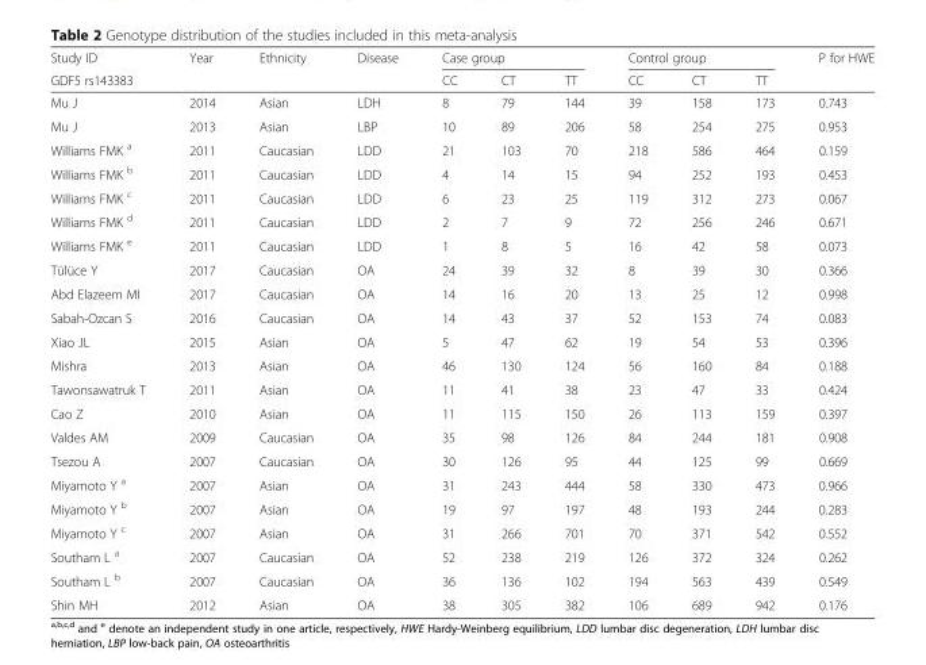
<table><thead><tr><td rowspan="2">Study ID GDF5 rs143383</td><td rowspan="2">Year</td><td rowspan="2">Ethnicity</td><td rowspan="2">Disease</td><td colspan="3">Case group</td><td colspan="3">Control group</td><td rowspan="2">P for HWE</td></tr><tr><td>CC</td><td>CT</td><td>TT</td><td>CC</td><td>CT</td><td>TT</td></tr></thead><tbody><tr><td>Mu J</td><td>2014</td><td>Asian</td><td>LDH</td><td>8</td><td>79</td><td>144</td><td>39</td><td>158</td><td>173</td><td>0.743</td></tr><tr><td>Mu J</td><td>2013</td><td>Asian</td><td>LBP</td><td>10</td><td>89</td><td>206</td><td>58</td><td>254</td><td>275</td><td>0.953</td></tr><tr><td>Williams FMK <sup>a</sup></td><td>2011</td><td>Caucasian</td><td>LDD</td><td>21</td><td>103</td><td>70</td><td>218</td><td>586</td><td>464</td><td>0.159</td></tr><tr><td>Williams FMK <sup>b</sup></td><td>2011</td><td>Caucasian</td><td>LDD</td><td>4</td><td>14</td><td>15</td><td>94</td><td>252</td><td>193</td><td>0.453</td></tr><tr><td>Williams FMK <sup>c</sup></td><td>2011</td><td>Caucasian</td><td>LDD</td><td>6</td><td>23</td><td>25</td><td>119</td><td>312</td><td>273</td><td>0.067</td></tr><tr><td>Williams FMK <sup>d</sup></td><td>2011</td><td>Caucasian</td><td>LDD</td><td>2</td><td>7</td><td>9</td><td>72</td><td>256</td><td>246</td><td>0.671</td></tr><tr><td>Williams FMK <sup>e</sup></td><td>2011</td><td>Caucasian</td><td>LDD</td><td>1</td><td>8</td><td>5</td><td>16</td><td>42</td><td>58</td><td>0.073</td></tr><tr><td>Tülüce Y</td><td>2017</td><td>Caucasian</td><td>OA</td><td>24</td><td>39</td><td>32</td><td>8</td><td>39</td><td>30</td><td>0.366</td></tr><tr><td>Abd Elazeem MI</td><td>2017</td><td>Caucasian</td><td>OA</td><td>14</td><td>16</td><td>20</td><td>13</td><td>25</td><td>12</td><td>0.998</td></tr><tr><td>Sabah-Ozcan S</td><td>2016</td><td>Caucasian</td><td>OA</td><td>14</td><td>43</td><td>37</td><td>52</td><td>153</td><td>74</td><td>0.083</td></tr><tr><td>Xiao JL</td><td>2015</td><td>Asian</td><td>OA</td><td>5</td><td>47</td><td>62</td><td>19</td><td>54</td><td>53</td><td>0.396</td></tr><tr><td>Mishra</td><td>2013</td><td>Asian</td><td>OA</td><td>46</td><td>130</td><td>124</td><td>56</td><td>160</td><td>84</td><td>0.188</td></tr><tr><td>Tawonsawatruk T</td><td>2011</td><td>Asian</td><td>OA</td><td>11</td><td>41</td><td>38</td><td>23</td><td>47</td><td>33</td><td>0.424</td></tr><tr><td>Cao Z</td><td>2010</td><td>Asian</td><td>OA</td><td>11</td><td>115</td><td>150</td><td>26</td><td>113</td><td>159</td><td>0.397</td></tr><tr><td>Valdes AM</td><td>2009</td><td>Caucasian</td><td>OA</td><td>35</td><td>98</td><td>126</td><td>84</td><td>244</td><td>181</td><td>0.908</td></tr><tr><td>Tsezou A</td><td>2007</td><td>Caucasian</td><td>OA</td><td>30</td><td>126</td><td>95</td><td>44</td><td>125</td><td>99</td><td>0.669</td></tr><tr><td>Miyamoto Y <sup>a</sup></td><td>2007</td><td>Asian</td><td>OA</td><td>31</td><td>243</td><td>444</td><td>58</td><td>330</td><td>473</td><td>0.966</td></tr><tr><td>Miyamoto Y <sup>b</sup></td><td>2007</td><td>Asian</td><td>OA</td><td>19</td><td>97</td><td>197</td><td>48</td><td>193</td><td>244</td><td>0.283</td></tr><tr><td>Miyamoto Y <sup>c</sup></td><td>2007</td><td>Asian</td><td>OA</td><td>31</td><td>266</td><td>701</td><td>70</td><td>371</td><td>542</td><td>0.552</td></tr><tr><td>Southam L <sup>a</sup></td><td>2007</td><td>Caucasian</td><td>OA</td><td>52</td><td>238</td><td>219</td><td>126</td><td>372</td><td>324</td><td>0.262</td></tr><tr><td>Southam L <sup>b</sup></td><td>2007</td><td>Caucasian</td><td>OA</td><td>36</td><td>136</td><td>102</td><td>194</td><td>563</td><td>439</td><td>0.549</td></tr><tr><td>Shin MH</td><td>2012</td><td>Asian</td><td>OA</td><td>38</td><td>305</td><td>382</td><td>106</td><td>689</td><td>942</td><td>0.176</td></tr></tbody></table>